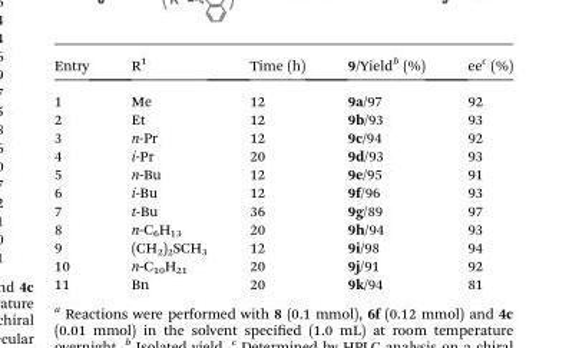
<table><thead><tr><td>Entry</td><td>R<sup>1</sup></td><td>Time (h)</td><td>9/Yield<sup>b</sup> (%)</td><td>ee<sup>c</sup> (%)</td></tr></thead><tbody><tr><td>1</td><td>Me</td><td>12</td><td>9a/97</td><td>92</td></tr><tr><td>2</td><td>Et</td><td>12</td><td>9b/93</td><td>93</td></tr><tr><td>3</td><td>n-Pr</td><td>12</td><td>9c/94</td><td>92</td></tr><tr><td>4</td><td>i-Pr</td><td>20</td><td>9d/93</td><td>93</td></tr><tr><td>5</td><td>n-Bu</td><td>12</td><td>9e/95</td><td>91</td></tr><tr><td>6</td><td>i-Bu</td><td>12</td><td>9f/96</td><td>93</td></tr><tr><td>7</td><td>t-Bu</td><td>36</td><td>9g/89</td><td>97</td></tr><tr><td>8</td><td>n-C<sub>6</sub>H<sub>13</sub></td><td>20</td><td>9h/94</td><td>93</td></tr><tr><td>9</td><td>(CH<sub>2</sub>)<sub>2</sub>SCH<sub>3</sub></td><td>12</td><td>9i/98</td><td>94</td></tr><tr><td>10</td><td>n-C<sub>10</sub>H<sub>21</sub></td><td>20</td><td>9j/91</td><td>92</td></tr><tr><td>11</td><td>Bn</td><td>20</td><td>9k/94</td><td>81</td></tr></tbody></table>